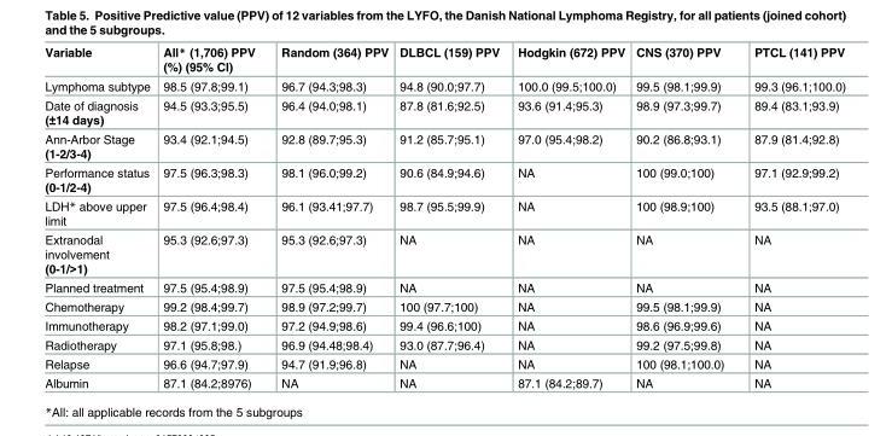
<table><thead><tr><td>Variable</td><td>All* (1,706) PPV (%) (95% CI)</td><td>Random (364) PPV</td><td>DLBCL (159) PPV</td><td>Hodgkin (672) PPV</td><td>CNS (370) PPV</td><td>PTCL (141) PPV</td></tr></thead><tbody><tr><td>Lymphoma subtype</td><td>98.5 (97.8;99.1)</td><td>96.7 (94.3;98.3)</td><td>94.8 (90.0;97.7)</td><td>100.0 (99.5;100.0)</td><td>99.5 (98.1;99.9)</td><td>99.3 (96.1;100.0)</td></tr><tr><td>Date of diagnosis (±14 days)</td><td>94.5 (93.3;95.5)</td><td>96.4 (94.0;98.1)</td><td>87.8 (81.6;92.5)</td><td>93.6 (91.4;95.3)</td><td>98.9 (97.3;99.7)</td><td>89.4 (83.1;93.9)</td></tr><tr><td>Ann-Arbor Stage (1-2/3-4)</td><td>93.4 (92.1;94.5)</td><td>92.8 (89.7;95.3)</td><td>91.2 (85.7;95.1)</td><td>97.0 (95.4;98.2)</td><td>90.2 (86.8;93.1)</td><td>87.9 (81.4;92.8)</td></tr><tr><td>Performance status (0-1/2-4)</td><td>97.5 (96.3;98.3)</td><td>98.1 (96.0;99.2)</td><td>90.6 (84.9;94.6)</td><td>NA</td><td>100 (99.0;100)</td><td>97.1 (92.9;99.2)</td></tr><tr><td>LDH* above upper limit</td><td>97.5 (96.4;98.4)</td><td>96.1 (93.41;97.7)</td><td>98.7 (95.5;99.9)</td><td>NA</td><td>100 (98.9;100)</td><td>93.5 (88.1;97.0)</td></tr><tr><td>Extranodal involvement (0-1/&gt;1)</td><td>95.3 (92.6;97.3)</td><td>95.3 (92.6;97.3)</td><td>NA</td><td>NA</td><td>NA</td><td>NA</td></tr><tr><td>Planned treatment</td><td>97.5 (95.4;98.9)</td><td>97.5 (95.4;98.9)</td><td>NA</td><td>NA</td><td>NA</td><td>NA</td></tr><tr><td>Chemotherapy</td><td>99.2 (98.4;99.7)</td><td>98.9 (97.2;99.7)</td><td>100 (97.7;100)</td><td>NA</td><td>99.5 (98.1;99.9)</td><td>NA</td></tr><tr><td>Immunotherapy</td><td>98.2 (97.1;99.0)</td><td>97.2 (94.9;98.6)</td><td>99.4 (96.6;100)</td><td>NA</td><td>98.6 (96.9;99.6)</td><td>NA</td></tr><tr><td>Radiotherapy</td><td>97.1 (95.8;98.)</td><td>96.9 (94.48;98.4)</td><td>93.0 (87.7;96.4)</td><td>NA</td><td>99.2 (97.5;99.8)</td><td>NA</td></tr><tr><td>Relapse</td><td>96.6 (94.7;97.9)</td><td>94.7 (91.9;96.8)</td><td>NA</td><td>NA</td><td>100 (98.1;100.0)</td><td>NA</td></tr><tr><td>Albumin</td><td>87.1 (84.2;8976)</td><td>NA</td><td>NA</td><td>87.1 (84.2;89.7)</td><td>NA</td><td>NA</td></tr></tbody></table>